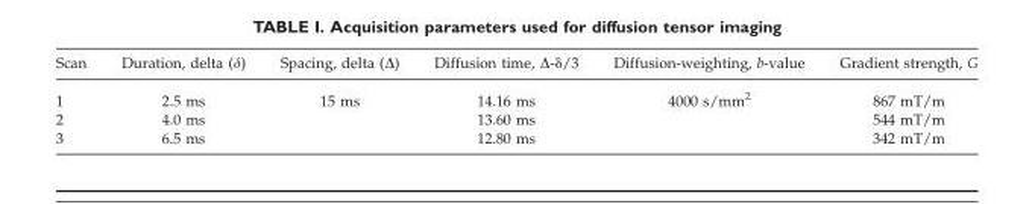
<table><thead><tr><td>Scan</td><td>Duration, delta (δ)</td><td>Spacing, delta (Δ)</td><td>Diffusion time, Δ-δ/3</td><td>Diffusion-weighting, b-value</td><td>Gradient strength, G</td></tr></thead><tbody><tr><td>1</td><td>2.5 ms</td><td rowspan="3">15 ms</td><td>14.16 ms</td><td rowspan="3">4000 s/mm<sup>2</sup></td><td>867 mT/m</td></tr><tr><td>2</td><td>4.0 ms</td><td>13.60 ms</td><td>544 mT/m</td></tr><tr><td>3</td><td>6.5 ms</td><td>12.80 ms</td><td>342 mT/m</td></tr></tbody></table>